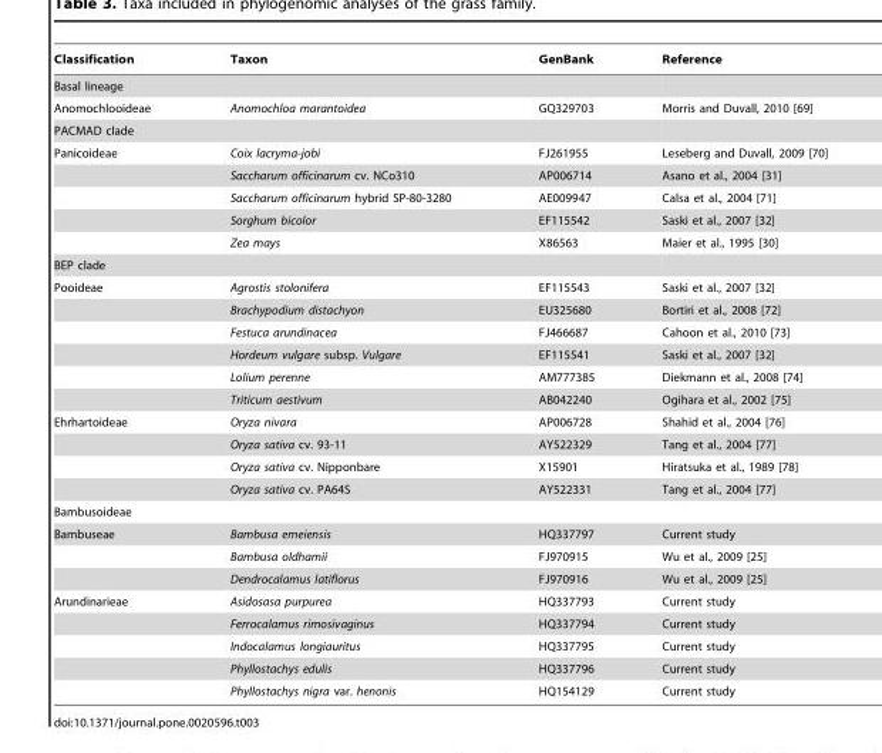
<table><thead><tr><td>Classification</td><td>Taxon</td><td>GenBank</td><td>Reference</td></tr></thead><tbody><tr><td colspan="4">Basal lineage</td></tr><tr><td>Anomochlooideae</td><td>Anomochloa marantoidea</td><td>GQ329703</td><td>Morris and Duvall, 2010 [69]</td></tr><tr><td colspan="4">PACMAD clade</td></tr><tr><td rowspan="5">Panicoideae</td><td>Coix lacryma-jobi</td><td>FJ261955</td><td>Leseberg and Duvall, 2009 [70]</td></tr><tr><td>Saccharum officinarum cv. NCo310</td><td>AP006714</td><td>Asano et al., 2004 [31]</td></tr><tr><td>Saccharum officinarum hybrid SP-80-3280</td><td>AE009947</td><td>Calsa et al., 2004 [71]</td></tr><tr><td>Sorghum bicolor</td><td>EF115542</td><td>Saski et al., 2007 [32]</td></tr><tr><td>Zea mays</td><td>X86563</td><td>Maier et al., 1995 [30]</td></tr><tr><td colspan="4">BEP clade</td></tr><tr><td rowspan="6">Pooideae</td><td>Agrostis stolonifera</td><td>EF115543</td><td>Saski et al., 2007 [32]</td></tr><tr><td>Brachypodium distachyon</td><td>EU325680</td><td>Bortiri et al., 2008 [72]</td></tr><tr><td>Festuca arundinacea</td><td>FJ466687</td><td>Cahoon et al., 2010 [73]</td></tr><tr><td>Hordeum vulgare subsp. Vulgare</td><td>EF115541</td><td>Saski et al., 2007 [32]</td></tr><tr><td>Lolium perenne</td><td>AM777385</td><td>Diekmann et al., 2008 [74]</td></tr><tr><td>Triticum aestivum</td><td>AB042240</td><td>Ogihara et al., 2002 [75]</td></tr><tr><td rowspan="4">Ehrhartoideae</td><td>Oryza nivara</td><td>AP006728</td><td>Shahid et al., 2004 [76]</td></tr><tr><td>Oryza sativa cv. 93-11</td><td>AY522329</td><td>Tang et al., 2004 [77]</td></tr><tr><td>Oryza sativa cv. Nipponbare</td><td>X15901</td><td>Hiratsuka et al., 1989 [78]</td></tr><tr><td>Oryza sativa cv. PA64S</td><td>AY522331</td><td>Tang et al., 2004 [77]</td></tr><tr><td colspan="4">Bambusoideae</td></tr><tr><td rowspan="3">Bambuseae</td><td>Bambusa emeiensis</td><td>HQ337797</td><td>Current study</td></tr><tr><td>Bambusa oldhamii</td><td>FJ970915</td><td>Wu et al., 2009 [25]</td></tr><tr><td>Dendrocalamus latiflorus</td><td>FJ970916</td><td>Wu et al., 2009 [25]</td></tr><tr><td rowspan="5">Arundinarieae</td><td>Asidosasa purpurea</td><td>HQ337793</td><td>Current study</td></tr><tr><td>Ferrocalamus rimosivaginus</td><td>HQ337794</td><td>Current study</td></tr><tr><td>Indocalamus longiauritus</td><td>HQ337795</td><td>Current study</td></tr><tr><td>Phyllostachys edulis</td><td>HQ337796</td><td>Current study</td></tr><tr><td>Phyllostachys nigra var. henonis</td><td>HQ154129</td><td>Current study</td></tr></tbody></table>